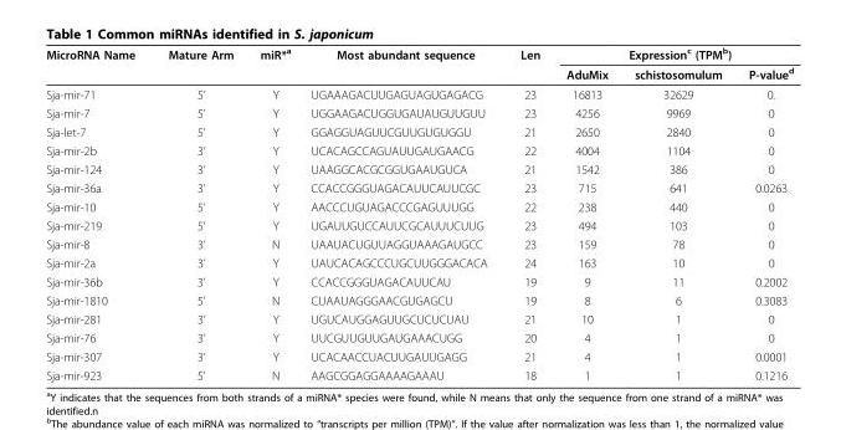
<table><thead><tr><td rowspan="2">MicroRNA Name</td><td rowspan="2">Mature Arm</td><td rowspan="2">miR*<sup>a</sup></td><td rowspan="2">Most abundant sequence</td><td rowspan="2">Len</td><td colspan="3">Expression<sup>c</sup> (TPM<sup>b</sup>)</td></tr><tr><td>AduMix</td><td>schistosomulum</td><td>P-value<sup>d</sup></td></tr></thead><tbody><tr><td>Sja-mir-71</td><td>5’</td><td>Y</td><td>UGAAAGACUUGAGUAGUGAGACG</td><td>23</td><td>16813</td><td>32629</td><td>0.</td></tr><tr><td>Sja-mir-7</td><td>5’</td><td>Y</td><td>UGGAAGACUGGUGAUAUGUUGUU</td><td>23</td><td>4256</td><td>9969</td><td>0</td></tr><tr><td>Sja-let-7</td><td>5’</td><td>Y</td><td>GGAGGUAGUUCGUUGUGUGGU</td><td>21</td><td>2650</td><td>2840</td><td>0</td></tr><tr><td>Sja-mir-2b</td><td>3’</td><td>Y</td><td>UCACAGCCAGUAUUGAUGAACG</td><td>22</td><td>4004</td><td>1104</td><td>0</td></tr><tr><td>Sja-mir-124</td><td>3’</td><td>Y</td><td>UAAGGCACGCGGUGAAUGUCA</td><td>21</td><td>1542</td><td>386</td><td>0</td></tr><tr><td>Sja-mir-36a</td><td>3’</td><td>Y</td><td>CCACCGGGUAGACAUUCAUUCGC</td><td>23</td><td>715</td><td>641</td><td>0.0263</td></tr><tr><td>Sja-mir-10</td><td>5’</td><td>Y</td><td>AACCCUGUAGACCCGAGUUUGG</td><td>22</td><td>238</td><td>440</td><td>0</td></tr><tr><td>Sja-mir-219</td><td>5’</td><td>Y</td><td>UGAUUGUCCAUUCGCAUUUCUUG</td><td>23</td><td>494</td><td>103</td><td>0</td></tr><tr><td>Sja-mir-8</td><td>3’</td><td>N</td><td>UAAUACUGUUAGGUAAAGAUGCC</td><td>23</td><td>159</td><td>78</td><td>0</td></tr><tr><td>Sja-mir-2a</td><td>3’</td><td>Y</td><td>UAUCACAGCCCUGCUUGGGACACA</td><td>24</td><td>163</td><td>10</td><td>0</td></tr><tr><td>Sja-mir-36b</td><td>3’</td><td>Y</td><td>CCACCGGGUAGACAUUCAU</td><td>19</td><td>9</td><td>11</td><td>0.2002</td></tr><tr><td>Sja-mir-1810</td><td>5’</td><td>N</td><td>CUAAUAGGGAACGUGAGCU</td><td>19</td><td>8</td><td>6</td><td>0.3083</td></tr><tr><td>Sja-mir-281</td><td>3’</td><td>Y</td><td>UGUCAUGGAGUUGCUCUCUAU</td><td>21</td><td>10</td><td>1</td><td>0</td></tr><tr><td>Sja-mir-76</td><td>3’</td><td>Y</td><td>UUCGUUGUUGAUGAAACUGG</td><td>20</td><td>4</td><td>1</td><td>0</td></tr><tr><td>Sja-mir-307</td><td>3’</td><td>Y</td><td>UCACAACCUACUUGAUUGAGG</td><td>21</td><td>4</td><td>1</td><td>0.0001</td></tr><tr><td>Sja-mir-923</td><td>5’</td><td>N</td><td>AAGCGGAGGAAAAGAAAU</td><td>18</td><td>1</td><td>1</td><td>0.1216</td></tr></tbody></table>